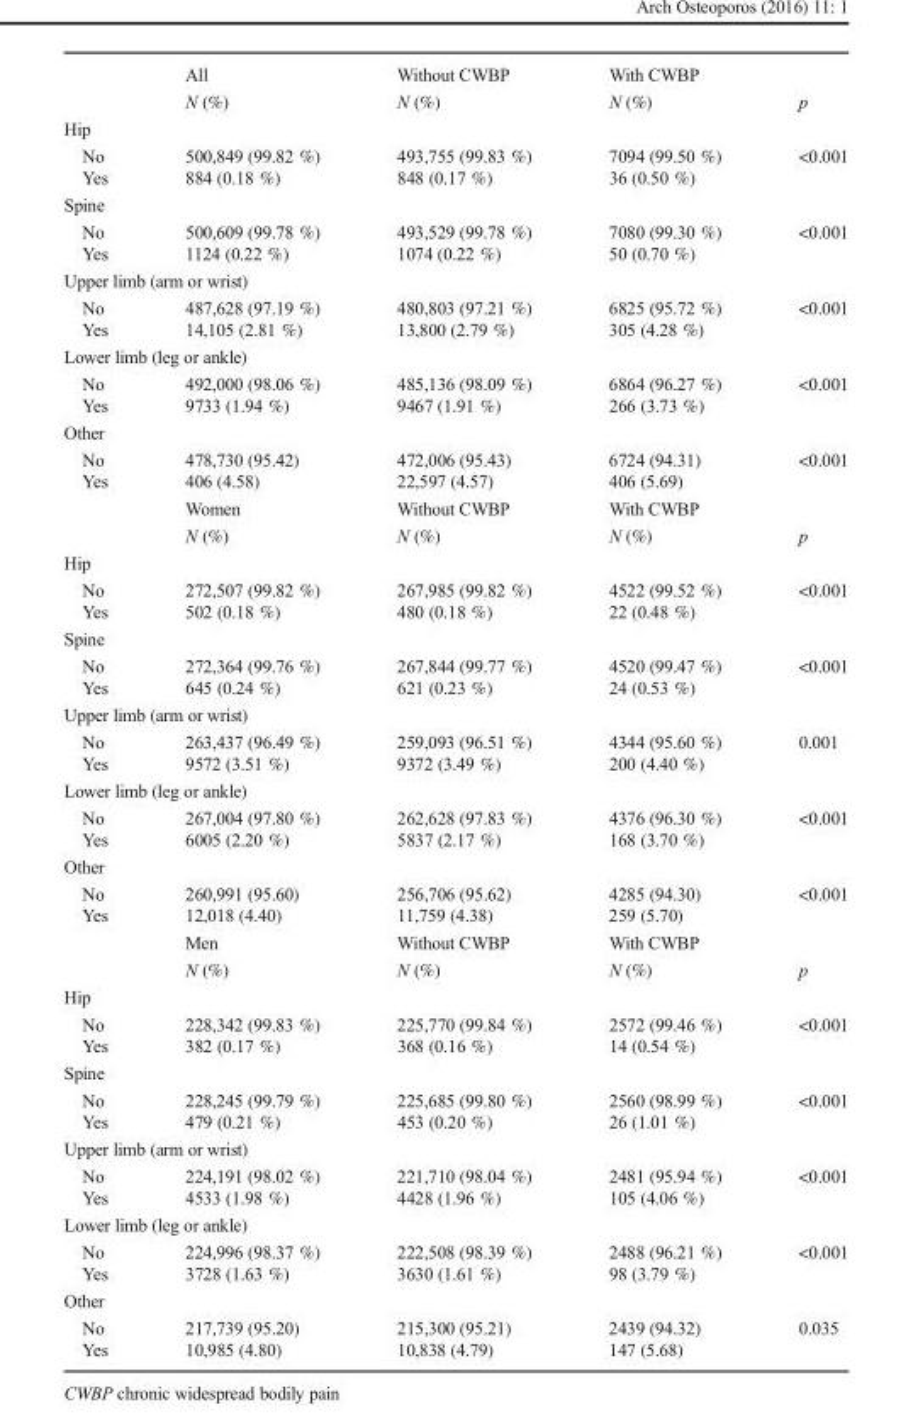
<table><thead><tr><td></td><td>All</td><td>Without CWBP</td><td>With CWBP</td><td></td></tr></thead><tbody><tr><td></td><td>N (%)</td><td>N (%)</td><td>N (%)</td><td>p</td></tr><tr><td colspan="5">Hip</td></tr><tr><td>No</td><td>500,849 (99.82 %)</td><td>493,755 (99.83 %)</td><td>7094 (99.50 %)</td><td rowspan="2">&lt;0.001</td></tr><tr><td>Yes</td><td>884 (0.18 %)</td><td>848 (0.17 %)</td><td>36 (0.50 %)</td></tr><tr><td colspan="5">Spine</td></tr><tr><td>No</td><td>500,609 (99.78 %)</td><td>493,529 (99.78 %)</td><td>7080 (99.30 %)</td><td rowspan="2">&lt;0.001</td></tr><tr><td>Yes</td><td>1124 (0.22 %)</td><td>1074 (0.22 %)</td><td>50 (0.70 %)</td></tr><tr><td colspan="5">Upper limb (arm or wrist)</td></tr><tr><td>No</td><td>487,628 (97.19 %)</td><td>480,803 (97.21 %)</td><td>6825 (95.72 %)</td><td rowspan="2">&lt;0.001</td></tr><tr><td>Yes</td><td>14,105 (2.81 %)</td><td>13,800 (2.79 %)</td><td>305 (4.28 %)</td></tr><tr><td colspan="5">Lower limb (leg or ankle)</td></tr><tr><td>No</td><td>492,000 (98.06 %)</td><td>485,136 (98.09 %)</td><td>6864 (96.27 %)</td><td rowspan="2">&lt;0.001</td></tr><tr><td>Yes</td><td>9733 (1.94 %)</td><td>9467 (1.91 %)</td><td>266 (3.73 %)</td></tr><tr><td colspan="5">Other</td></tr><tr><td>No</td><td>478,730 (95.42)</td><td>472,006 (95.43)</td><td>6724 (94.31)</td><td rowspan="2">&lt;0.001</td></tr><tr><td rowspan="3">Yes</td><td>406 (4.58)</td><td>22,597 (4.57)</td><td>406 (5.69)</td></tr><tr><td>Women</td><td>Without CWBP</td><td>With CWBP</td><td></td></tr><tr><td>N (%)</td><td>N (%)</td><td>N (%)</td><td>p</td></tr><tr><td colspan="5">Hip</td></tr><tr><td>No</td><td>272,507 (99.82 %)</td><td>267,985 (99.82 %)</td><td>4522 (99.52 %)</td><td rowspan="2">&lt;0.001</td></tr><tr><td>Yes</td><td>502 (0.18 %)</td><td>480 (0.18 %)</td><td>22 (0.48 %)</td></tr><tr><td colspan="5">Spine</td></tr><tr><td>No</td><td>272,364 (99.76 %)</td><td>267,844 (99.77 %)</td><td>4520 (99.47 %)</td><td rowspan="2">&lt;0.001</td></tr><tr><td>Yes</td><td>645 (0.24 %)</td><td>621 (0.23 %)</td><td>24 (0.53 %)</td></tr><tr><td colspan="5">Upper limb (arm or wrist)</td></tr><tr><td>No</td><td>263,437 (96.49 %)</td><td>259,093 (96.51 %)</td><td>4344 (95.60 %)</td><td rowspan="2">0.001</td></tr><tr><td>Yes</td><td>9572 (3.51 %)</td><td>9372 (3.49 %)</td><td>200 (4.40 %)</td></tr><tr><td colspan="5">Lower limb (leg or ankle)</td></tr><tr><td>No</td><td>267,004 (97.80 %)</td><td>262,628 (97.83 %)</td><td>4376 (96.30 %)</td><td rowspan="2">&lt;0.001</td></tr><tr><td>Yes</td><td>6005 (2.20 %)</td><td>5837 (2.17 %)</td><td>168 (3.70 %)</td></tr><tr><td colspan="5">Other</td></tr><tr><td>No</td><td>260,991 (95.60)</td><td>256,706 (95.62)</td><td>4285 (94.30)</td><td rowspan="2">&lt;0.001</td></tr><tr><td rowspan="3">Yes</td><td>12,018 (4.40)</td><td>11,759 (4.38)</td><td>259 (5.70)</td></tr><tr><td>Men</td><td>Without CWBP</td><td>With CWBP</td><td></td></tr><tr><td>N (%)</td><td>N (%)</td><td>N (%)</td><td>p</td></tr><tr><td colspan="5">Hip</td></tr><tr><td>No</td><td>228,342 (99.83 %)</td><td>225,770 (99.84 %)</td><td>2572 (99.46 %)</td><td rowspan="2">&lt;0.001</td></tr><tr><td>Yes</td><td>382 (0.17 %)</td><td>368 (0.16 %)</td><td>14 (0.54 %)</td></tr><tr><td colspan="5">Spine</td></tr><tr><td>No</td><td>228,245 (99.79 %)</td><td>225,685 (99.80 %)</td><td>2560 (98.99 %)</td><td rowspan="2">&lt;0.001</td></tr><tr><td>Yes</td><td>479 (0.21 %)</td><td>453 (0.20 %)</td><td>26 (1.01 %)</td></tr><tr><td colspan="5">Upper limb (arm or wrist)</td></tr><tr><td>No</td><td>224,191 (98.02 %)</td><td>221,710 (98.04 %)</td><td>2481 (95.94 %)</td><td rowspan="2">&lt;0.001</td></tr><tr><td>Yes</td><td>4533 (1.98 %)</td><td>4428 (1.96 %)</td><td>105 (4.06 %)</td></tr><tr><td colspan="5">Lower limb (leg or ankle)</td></tr><tr><td>No</td><td>224,996 (98.37 %)</td><td>222,508 (98.39 %)</td><td>2488 (96.21 %)</td><td rowspan="2">&lt;0.001</td></tr><tr><td>Yes</td><td>3728 (1.63 %)</td><td>3630 (1.61 %)</td><td>98 (3.79 %)</td></tr><tr><td colspan="5">Other</td></tr><tr><td>No</td><td>217,739 (95.20)</td><td>215,300 (95.21)</td><td>2439 (94.32)</td><td rowspan="2">0.035</td></tr><tr><td>Yes</td><td>10,985 (4.80)</td><td>10,838 (4.79)</td><td>147 (5.68)</td></tr></tbody></table>